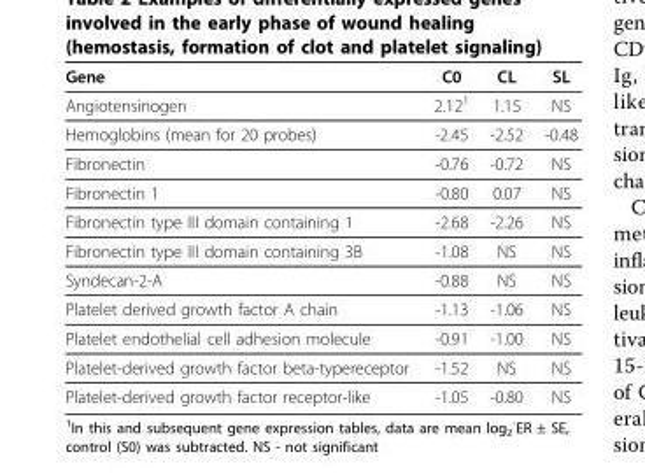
<table><thead><tr><td>Gene</td><td>C0</td><td>CL</td><td>SL</td></tr></thead><tbody><tr><td>Angiotensinogen</td><td>2.12<sup>1</sup></td><td>1.15</td><td>NS</td></tr><tr><td>Hemoglobins (mean for 20 probes)</td><td>-2.45</td><td>-2.52</td><td>-0.48</td></tr><tr><td>Fibronectin</td><td>-0.76</td><td>-0.72</td><td>NS</td></tr><tr><td>Fibronectin 1</td><td>-0.80</td><td>0.07</td><td>NS</td></tr><tr><td>Fibronectin type III domain containing 1</td><td>-2.68</td><td>-2.26</td><td>NS</td></tr><tr><td>Fibronectin type III domain containing 3B</td><td>-1.08</td><td>NS</td><td>NS</td></tr><tr><td>Syndecan-2-A</td><td>-0.88</td><td>NS</td><td>NS</td></tr><tr><td>Platelet derived growth factor A chain</td><td>-1.13</td><td>-1.06</td><td>NS</td></tr><tr><td>Platelet endothelial cell adhesion molecule</td><td>-0.91</td><td>-1.00</td><td>NS</td></tr><tr><td>Platelet-derived growth factor beta-typereceptor</td><td>-1.52</td><td>NS</td><td>NS</td></tr><tr><td>Platelet-derived growth factor receptor-like</td><td>-1.05</td><td>-0.80</td><td>NS</td></tr></tbody></table>